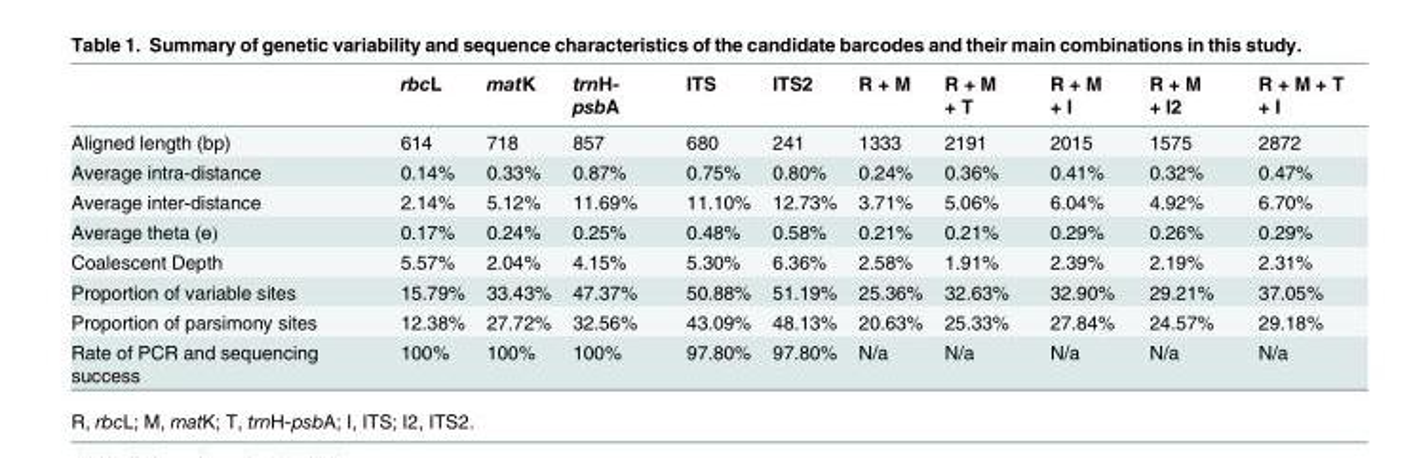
<table><thead><tr><td></td><td>rbcL</td><td>matK</td><td>trnH- psbA</td><td>ITS</td><td>ITS2</td><td>R + M</td><td>R + M + T</td><td>R + M + I</td><td>R + M + I2</td><td>R + M + T + I</td></tr></thead><tbody><tr><td>Aligned length (bp)</td><td>614</td><td>718</td><td>857</td><td>680</td><td>241</td><td>1333</td><td>2191</td><td>2015</td><td>1575</td><td>2872</td></tr><tr><td>Average intra-distance</td><td>0.14%</td><td>0.33%</td><td>0.87%</td><td>0.75%</td><td>0.80%</td><td>0.24%</td><td>0.36%</td><td>0.41%</td><td>0.32%</td><td>0.47%</td></tr><tr><td>Average inter-distance</td><td>2.14%</td><td>5.12%</td><td>11.69%</td><td>11.10%</td><td>12.73%</td><td>3.71%</td><td>5.06%</td><td>6.04%</td><td>4.92%</td><td>6.70%</td></tr><tr><td>Average theta (ө)</td><td>0.17%</td><td>0.24%</td><td>0.25%</td><td>0.48%</td><td>0.58%</td><td>0.21%</td><td>0.21%</td><td>0.29%</td><td>0.26%</td><td>0.29%</td></tr><tr><td>Coalescent Depth</td><td>5.57%</td><td>2.04%</td><td>4.15%</td><td>5.30%</td><td>6.36%</td><td>2.58%</td><td>1.91%</td><td>2.39%</td><td>2.19%</td><td>2.31%</td></tr><tr><td>Proportion of variable sites</td><td>15.79%</td><td>33.43%</td><td>47.37%</td><td>50.88%</td><td>51.19%</td><td>25.36%</td><td>32.63%</td><td>32.90%</td><td>29.21%</td><td>37.05%</td></tr><tr><td>Proportion of parsimony sites</td><td>12.38%</td><td>27.72%</td><td>32.56%</td><td>43.09%</td><td>48.13%</td><td>20.63%</td><td>25.33%</td><td>27.84%</td><td>24.57%</td><td>29.18%</td></tr><tr><td>Rate of PCR and sequencing success</td><td>100%</td><td>100%</td><td>100%</td><td>97.80%</td><td>97.80%</td><td>N/a</td><td>N/a</td><td>N/a</td><td>N/a</td><td>N/a</td></tr></tbody></table>